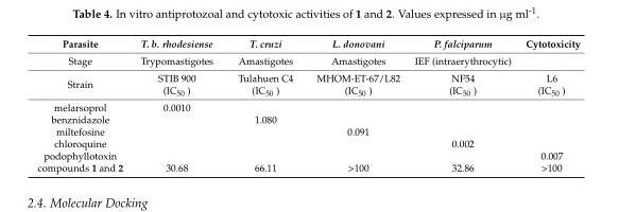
<table><thead><tr><td>Parasite</td><td>T. b. rhodesiense</td><td>T. cruzi</td><td>L. donovani</td><td>P. falciparum</td><td>Cytotoxicity</td></tr></thead><tbody><tr><td>Stage</td><td>Trypomastigotes</td><td>Amastigotes</td><td>Amastigotes</td><td>IEF (intraerythrocytic)</td><td></td></tr><tr><td>Strain</td><td>STIB 900 (IC<sub>50</sub> )</td><td>Tulahuen C4 (IC<sub>50</sub> )</td><td>MHOM-ET-67/L82 (IC<sub>50</sub> )</td><td>NF54 (IC<sub>50</sub> )</td><td>L6 (IC<sub>50</sub> )</td></tr><tr><td>melarsoprol</td><td>0.0010</td><td></td><td></td><td></td><td></td></tr><tr><td>benznidazole</td><td></td><td>1.080</td><td></td><td></td><td></td></tr><tr><td>miltefosine</td><td></td><td></td><td>0.091</td><td></td><td></td></tr><tr><td>chloroquine</td><td></td><td></td><td></td><td>0.002</td><td></td></tr><tr><td>podophyllotoxin</td><td></td><td></td><td></td><td></td><td>0.007</td></tr><tr><td>compounds 1 and 2</td><td>30.68</td><td>66.11</td><td>&gt;100</td><td>32.86</td><td>&gt;100</td></tr></tbody></table>